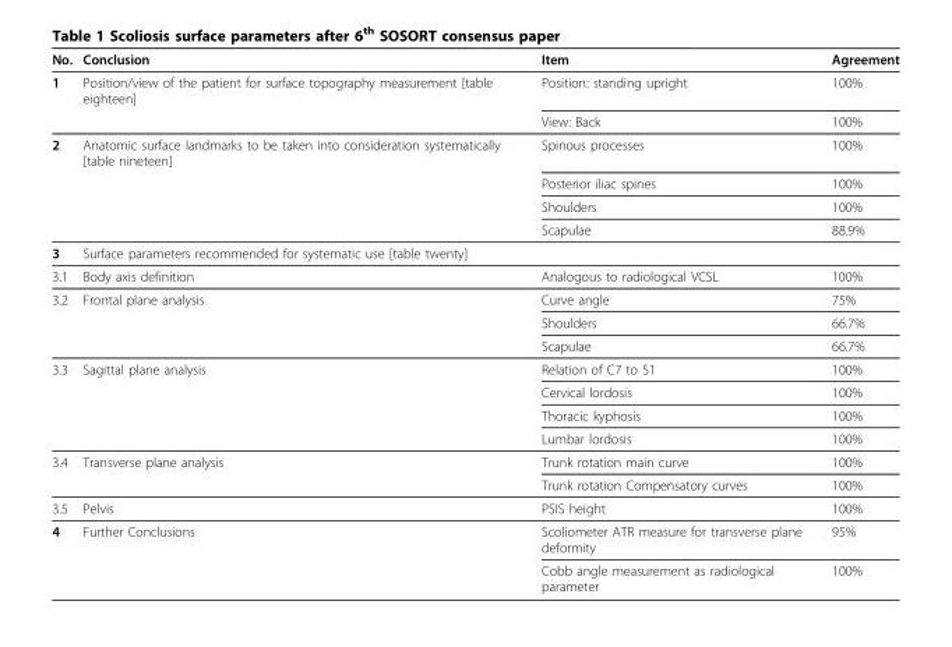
<table><thead><tr><td>No.</td><td>Conclusion</td><td>Item</td><td>Agreement</td></tr></thead><tbody><tr><td rowspan="2">1</td><td>Position/view of the patient for surface topography measurement [table eighteen]</td><td>Position: standing upright</td><td>100%</td></tr><tr><td></td><td>View: Back</td><td>100%</td></tr><tr><td rowspan="4">2</td><td>Anatomic surface landmarks to be taken into consideration systematically [table nineteen]</td><td>Spinous processes</td><td>100%</td></tr><tr><td></td><td>Posterior iliac spines</td><td>100%</td></tr><tr><td></td><td>Shoulders</td><td>100%</td></tr><tr><td></td><td>Scapulae</td><td>88.9%</td></tr><tr><td>3</td><td colspan="3">Surface parameters recommended for systematic use [table twenty]</td></tr><tr><td>3.1</td><td>Body axis definition</td><td>Analogous to radiological VCSL</td><td>100%</td></tr><tr><td rowspan="3">3.2</td><td>Frontal plane analysis</td><td>Curve angle</td><td>75%</td></tr><tr><td></td><td>Shoulders</td><td>66.7%</td></tr><tr><td></td><td>Scapulae</td><td>66.7%</td></tr><tr><td rowspan="4">3.3</td><td>Sagittal plane analysis</td><td>Relation of C7 to S1</td><td>100%</td></tr><tr><td></td><td>Cervical lordosis</td><td>100%</td></tr><tr><td></td><td>Thoracic kyphosis</td><td>100%</td></tr><tr><td></td><td>Lumbar lordosis</td><td>100%</td></tr><tr><td rowspan="2">3.4</td><td>Transverse plane analysis</td><td>Trunk rotation main curve</td><td>100%</td></tr><tr><td></td><td>Trunk rotation Compensatory curves</td><td>100%</td></tr><tr><td>3.5</td><td>Pelvis</td><td>PSIS height</td><td>100%</td></tr><tr><td rowspan="2">4</td><td>Further Conclusions</td><td>Scoliometer ATR measure for transverse plane deformity</td><td>95%</td></tr><tr><td></td><td>Cobb angle measurement as radiological parameter</td><td>100%</td></tr></tbody></table>